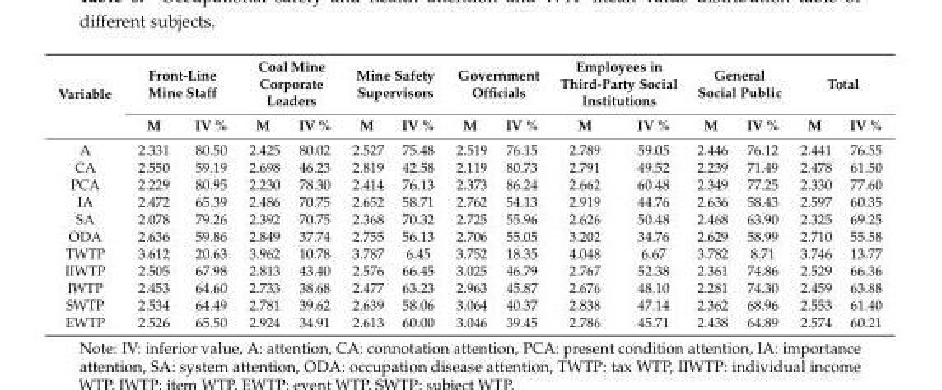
<table><thead><tr><td rowspan="2">Variable</td><td colspan="2">Front-Line Mine Staff</td><td colspan="2">Coal Mine Corporate Leaders</td><td colspan="2">Mine Safety Supervisors</td><td colspan="2">Government Officials</td><td colspan="2">Employees in Third-Party Social Institutions</td><td colspan="2">General Social Public</td><td colspan="2">Total</td></tr><tr><td>M</td><td>IV %</td><td>M</td><td>IV %</td><td>M</td><td>IV %</td><td>M</td><td>IV %</td><td>M</td><td>IV %</td><td>M</td><td>IV %</td><td>M</td><td>IV %</td></tr></thead><tbody><tr><td>A</td><td>2.331</td><td>80.50</td><td>2.425</td><td>80.02</td><td>2.527</td><td>75.48</td><td>2.519</td><td>76.15</td><td>2.789</td><td>59.05</td><td>2.446</td><td>76.12</td><td>2.441</td><td>76.55</td></tr><tr><td>CA</td><td>2.550</td><td>59.19</td><td>2.698</td><td>46.23</td><td>2.819</td><td>42.58</td><td>2.119</td><td>80.73</td><td>2.791</td><td>49.52</td><td>2.239</td><td>71.49</td><td>2.478</td><td>61.50</td></tr><tr><td>PCA</td><td>2.229</td><td>80.95</td><td>2.230</td><td>78.30</td><td>2.414</td><td>76.13</td><td>2.373</td><td>86.24</td><td>2.662</td><td>60.48</td><td>2.349</td><td>77.25</td><td>2.330</td><td>77.60</td></tr><tr><td>IA</td><td>2.472</td><td>65.39</td><td>2.486</td><td>70.75</td><td>2.652</td><td>58.71</td><td>2.762</td><td>54.13</td><td>2.919</td><td>44.76</td><td>2.636</td><td>58.43</td><td>2.597</td><td>60.35</td></tr><tr><td>SA</td><td>2.078</td><td>79.26</td><td>2.392</td><td>70.75</td><td>2.368</td><td>70.32</td><td>2.725</td><td>55.96</td><td>2.626</td><td>50.48</td><td>2.468</td><td>63.90</td><td>2.325</td><td>69.25</td></tr><tr><td>ODA</td><td>2.636</td><td>59.86</td><td>2.849</td><td>37.74</td><td>2.755</td><td>56.13</td><td>2.706</td><td>55.05</td><td>3.202</td><td>34.76</td><td>2.629</td><td>58.99</td><td>2.710</td><td>55.58</td></tr><tr><td>TWTP</td><td>3.612</td><td>20.63</td><td>3.962</td><td>10.78</td><td>3.787</td><td>6.45</td><td>3.752</td><td>18.35</td><td>4.048</td><td>6.67</td><td>3.782</td><td>8.71</td><td>3.746</td><td>13.77</td></tr><tr><td>IIWTP</td><td>2.505</td><td>67.98</td><td>2.813</td><td>43.40</td><td>2.576</td><td>66.45</td><td>3.025</td><td>46.79</td><td>2.767</td><td>52.38</td><td>2.361</td><td>74.86</td><td>2.529</td><td>66.36</td></tr><tr><td>IWTP</td><td>2.453</td><td>64.60</td><td>2.733</td><td>38.68</td><td>2.477</td><td>63.23</td><td>2.963</td><td>45.87</td><td>2.676</td><td>48.10</td><td>2.281</td><td>74.30</td><td>2.459</td><td>63.88</td></tr><tr><td>SWTP</td><td>2.534</td><td>64.49</td><td>2.781</td><td>39.62</td><td>2.639</td><td>58.06</td><td>3.064</td><td>40.37</td><td>2.838</td><td>47.14</td><td>2.362</td><td>68.96</td><td>2.553</td><td>61.40</td></tr><tr><td>EWTP</td><td>2.526</td><td>65.50</td><td>2.924</td><td>34.91</td><td>2.613</td><td>60.00</td><td>3.046</td><td>39.45</td><td>2.786</td><td>45.71</td><td>2.438</td><td>64.89</td><td>2.574</td><td>60.21</td></tr></tbody></table>